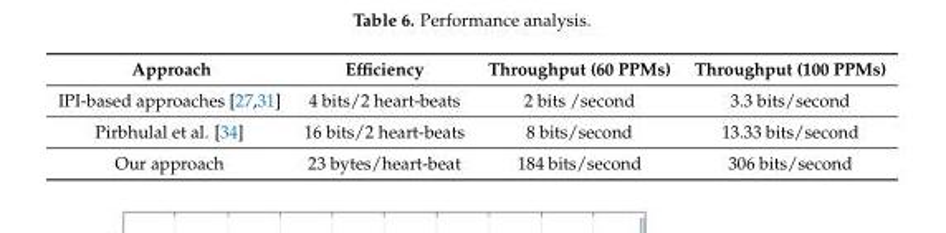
<table><thead><tr><td>Approach</td><td>Efficiency</td><td>Throughput (60 PPMs)</td><td>Throughput (100 PPMs)</td></tr></thead><tbody><tr><td>IPI-based approaches [27,31]</td><td>4 bits/2 heart-beats</td><td>2 bits /second</td><td>3.3 bits/second</td></tr><tr><td>Pirbhulal et al. [34]</td><td>16 bits/2 heart-beats</td><td>8 bits/second</td><td>13.33 bits/second</td></tr><tr><td>Our approach</td><td>23 bytes/heart-beat</td><td>184 bits/second</td><td>306 bits/second</td></tr></tbody></table>